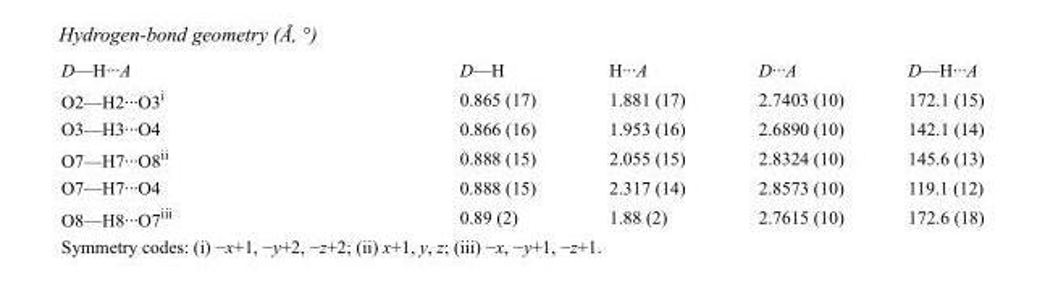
<table><tbody><tr><td>D—H···A</td><td>D—H</td><td>H···A</td><td>D···A</td><td>D—H···A</td></tr><tr><td>O2—H2···O3<sup>i</sup></td><td>0.865 (17)</td><td>1.881 (17)</td><td>2.7403 (10)</td><td>172.1 (15)</td></tr><tr><td>O3—H3···O4</td><td>0.866 (16)</td><td>1.953 (16)</td><td>2.6890 (10)</td><td>142.1 (14)</td></tr><tr><td>O7—H7···O8<sup>ii</sup></td><td>0.888 (15)</td><td>2.055 (15)</td><td>2.8324 (10)</td><td>145.6 (13)</td></tr><tr><td>O7—H7···O4</td><td>0.888 (15)</td><td>2.317 (14)</td><td>2.8573 (10)</td><td>119.1 (12)</td></tr><tr><td>O8—H8···O7<sup>iii</sup></td><td>0.89 (2)</td><td>1.88 (2)</td><td>2.7615 (10)</td><td>172.6 (18)</td></tr></tbody></table>